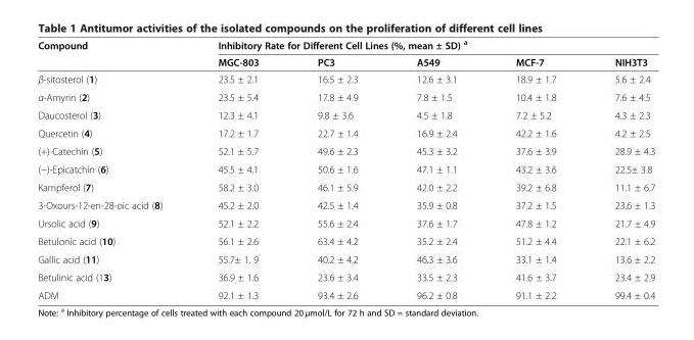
<table><thead><tr><td rowspan="2">Compound</td><td colspan="5">Inhibitory Rate for Different Cell Lines (%, mean ± SD) <sup>a</sup></td></tr><tr><td>MGC-803</td><td>PC3</td><td>A549</td><td>MCF-7</td><td>NIH3T3</td></tr></thead><tbody><tr><td>β-sitosterol (1)</td><td>23.5 ± 2.1</td><td>16.5 ± 2.3</td><td>12.6 ± 3.1</td><td>18.9 ± 1.7</td><td>5.6 ± 2.4</td></tr><tr><td>α-Amyrin (2)</td><td>23.5 ± 5.4</td><td>17.8 ± 4.9</td><td>7.8 ± 1.5</td><td>10.4 ± 1.8</td><td>7.6 ± 4.5</td></tr><tr><td>Daucosterol (3)</td><td>12.3 ± 4.1</td><td>9.8 ± 3.6</td><td>4.5 ± 1.8</td><td>7.2 ± 5.2</td><td>4.3 ± 2.3</td></tr><tr><td>Quercetin (4)</td><td>17.2 ± 1.7</td><td>22.7 ± 1.4</td><td>16.9 ± 2.4</td><td>42.2 ± 1.6</td><td>4.2 ± 2.5</td></tr><tr><td>(+)-Catechin (5)</td><td>52.1 ± 5.7</td><td>49.6 ± 2.3</td><td>45.3 ± 3.2</td><td>37.6 ± 3.9</td><td>28.9 ± 4.3</td></tr><tr><td>(−)-Epicatchin (6)</td><td>45.5 ± 4.1</td><td>50.6 ± 1.6</td><td>47.1 ± 1.1</td><td>43.2 ± 3.6</td><td>22.5± 3.8</td></tr><tr><td>Kampferol (7)</td><td>58.2 ± 3.0</td><td>46.1 ± 5.9</td><td>42.0 ± 2.2</td><td>39.2 ± 6.8</td><td>11.1 ± 6.7</td></tr><tr><td>3-Oxours-12-en-28-oic acid (8)</td><td>45.2 ± 2.0</td><td>42.5 ± 1.4</td><td>35.9 ± 0.8</td><td>37.2 ± 1.5</td><td>23.6 ± 1.3</td></tr><tr><td>Ursolic acid (9)</td><td>52.1 ± 2.2</td><td>55.6 ± 2.4</td><td>37.6 ± 1.7</td><td>47.8 ± 1.2</td><td>21.7 ± 4.9</td></tr><tr><td>Betulonic acid (10)</td><td>56.1 ± 2.6</td><td>63.4 ± 4.2</td><td>35.2 ± 2.4</td><td>51.2 ± 4.4</td><td>22.1 ± 6.2</td></tr><tr><td>Gallic acid (11)</td><td>55.7± 1. 9</td><td>40.2 ± 4.2</td><td>46.3 ± 3.6</td><td>33.1 ± 1.4</td><td>13.6 ± 2.2</td></tr><tr><td>Betulinic acid (13)</td><td>36.9 ± 1.6</td><td>23.6 ± 3.4</td><td>33.5 ± 2.3</td><td>41.6 ± 3.7</td><td>23.4 ± 2.9</td></tr><tr><td>ADM</td><td>92.1 ± 1.3</td><td>93.4 ± 2.6</td><td>96.2 ± 0.8</td><td>91.1 ± 2.2</td><td>99.4 ± 0.4</td></tr></tbody></table>